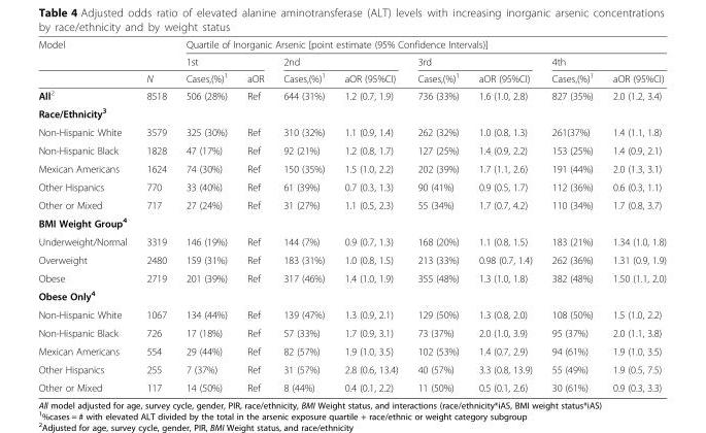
<table><thead><tr><td rowspan="3">Model</td><td rowspan="3">N</td><td colspan="8">Quartile of Inorganic Arsenic [point estimate (95% Confidence Intervals)]</td></tr><tr><td colspan="2">1st</td><td colspan="2">2nd</td><td colspan="2">3rd</td><td colspan="2">4th</td></tr><tr><td>Cases,(%)<sup>1</sup></td><td>aOR</td><td>Cases,(%)<sup>1</sup></td><td>aOR (95%CI)</td><td>Cases,(%)<sup>1</sup></td><td>aOR (95%CI)</td><td>Cases,(%)<sup>1</sup></td><td>aOR (95%CI)</td></tr></thead><tbody><tr><td>All<sup>2</sup></td><td>8518</td><td>506 (28%)</td><td>Ref</td><td>644 (31%)</td><td>1.2 (0.7, 1.9)</td><td>736 (33%)</td><td>1.6 (1.0, 2.8)</td><td>827 (35%)</td><td>2.0 (1.2, 3.4)</td></tr><tr><td colspan="10">Race/Ethnicity<sup>3</sup></td></tr><tr><td>Non-Hispanic White</td><td>3579</td><td>325 (30%)</td><td>Ref</td><td>310 (32%)</td><td>1.1 (0.9, 1.4)</td><td>262 (32%)</td><td>1.0 (0.8, 1.3)</td><td>261(37%)</td><td>1.4 (1.1, 1.8)</td></tr><tr><td>Non-Hispanic Black</td><td>1828</td><td>47 (17%)</td><td>Ref</td><td>92 (21%)</td><td>1.2 (0.8, 1.7)</td><td>127 (25%)</td><td>1.4 (0.9, 2.2)</td><td>153 (25%)</td><td>1.4 (0.9, 2.1)</td></tr><tr><td>Mexican Americans</td><td>1624</td><td>74 (30%)</td><td>Ref</td><td>150 (35%)</td><td>1.5 (1.0, 2.2)</td><td>202 (39%)</td><td>1.7 (1.1, 2.6)</td><td>191 (44%)</td><td>2.0 (1.3, 3.1)</td></tr><tr><td>Other Hispanics</td><td>770</td><td>33 (40%)</td><td>Ref</td><td>61 (39%)</td><td>0.7 (0.3, 1.3)</td><td>90 (41%)</td><td>0.9 (0.5, 1.7)</td><td>112 (36%)</td><td>0.6 (0.3, 1.1)</td></tr><tr><td>Other or Mixed</td><td>717</td><td>27 (24%)</td><td>Ref</td><td>31 (27%)</td><td>1.1 (0.5, 2.3)</td><td>55 (34%)</td><td>1.7 (0.7, 4.2)</td><td>110 (34%)</td><td>1.7 (0.8, 3.7)</td></tr><tr><td colspan="10">BMI Weight Group<sup>4</sup></td></tr><tr><td>Underweight/Normal</td><td>3319</td><td>146 (19%)</td><td>Ref</td><td>144 (7%)</td><td>0.9 (0.7, 1.3)</td><td>168 (20%)</td><td>1.1 (0.8, 1.5)</td><td>183 (21%)</td><td>1.34 (1.0, 1.8)</td></tr><tr><td>Overweight</td><td>2480</td><td>159 (31%)</td><td>Ref</td><td>183 (31%)</td><td>1.0 (0.8, 1.5)</td><td>213 (33%)</td><td>0.98 (0.7, 1.4)</td><td>262 (36%)</td><td>1.31 (0.9, 1.9)</td></tr><tr><td>Obese</td><td>2719</td><td>201 (39%)</td><td>Ref</td><td>317 (46%)</td><td>1.4 (1.0, 1.9)</td><td>355 (48%)</td><td>1.3 (1.0, 1.8)</td><td>382 (48%)</td><td>1.50 (1.1, 2.0)</td></tr><tr><td colspan="10">Obese Only<sup>4</sup></td></tr><tr><td>Non-Hispanic White</td><td>1067</td><td>134 (44%)</td><td>Ref</td><td>139 (47%)</td><td>1.3 (0.9, 2.1)</td><td>129 (50%)</td><td>1.3 (0.8, 2.0)</td><td>108 (50%)</td><td>1.5 (1.0, 2.2)</td></tr><tr><td>Non-Hispanic Black</td><td>726</td><td>17 (18%)</td><td>Ref</td><td>57 (33%)</td><td>1.7 (0.9, 3.1)</td><td>73 (37%)</td><td>2.0 (1.0, 3.9)</td><td>95 (37%)</td><td>2.0 (1.1, 3.8)</td></tr><tr><td>Mexican Americans</td><td>554</td><td>29 (44%)</td><td>Ref</td><td>82 (57%)</td><td>1.9 (1.0, 3.5)</td><td>102 (53%)</td><td>1.4 (0.7, 2.9)</td><td>94 (61%)</td><td>1.9 (1.0, 3.5)</td></tr><tr><td>Other Hispanics</td><td>255</td><td>7 (37%)</td><td>Ref</td><td>31 (57%)</td><td>2.8 (0.6, 13.4)</td><td>40 (57%)</td><td>3.3 (0.8, 13.9)</td><td>55 (49%)</td><td>1.9 (0.5, 7.5)</td></tr><tr><td>Other or Mixed</td><td>117</td><td>14 (50%)</td><td>Ref</td><td>8 (44%)</td><td>0.4 (0.1, 2.2)</td><td>11 (50%)</td><td>0.5 (0.1, 2.6)</td><td>30 (61%)</td><td>0.9 (0.3, 3.3)</td></tr></tbody></table>